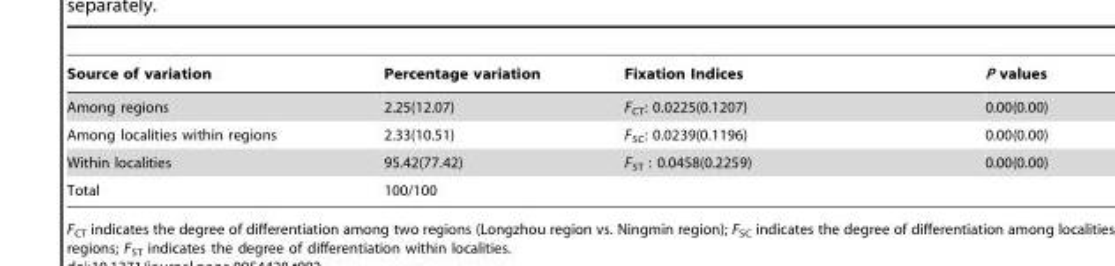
<table><thead><tr><td>Source of variation</td><td>Percentage variation</td><td>Fixation Indices</td><td>P values</td></tr></thead><tbody><tr><td>Among regions</td><td>2.25(12.07)</td><td>F<sub>CT</sub>: 0.0225(0.1207)</td><td>0.00(0.00)</td></tr><tr><td>Among localities within regions</td><td>2.33(10.51)</td><td>F<sub>SC</sub>: 0.0239(0.1196)</td><td>0.00(0.00)</td></tr><tr><td>Within localities</td><td>95.42(77.42)</td><td>F<sub>ST</sub> : 0.0458(0.2259)</td><td>0.00(0.00)</td></tr><tr><td>Total</td><td>100/100</td><td></td><td></td></tr></tbody></table>